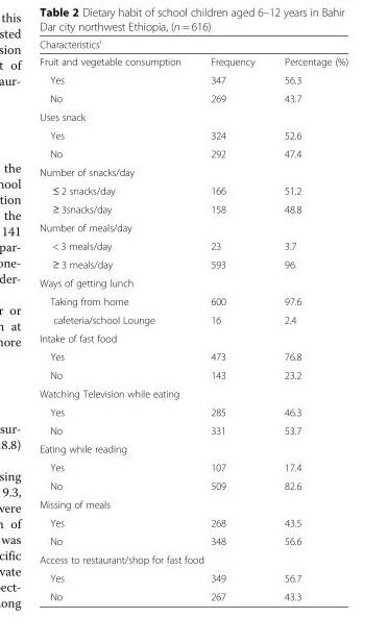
<table><thead><tr><td colspan="3">Characteristics’</td></tr><tr><td>Fruit and vegetable consumption</td><td>Frequency</td><td>Percentage (%)</td></tr></thead><tbody><tr><td>Yes</td><td>347</td><td>56.3</td></tr><tr><td>No</td><td>269</td><td>43.7</td></tr><tr><td colspan="3">Uses snack</td></tr><tr><td>Yes</td><td>324</td><td>52.6</td></tr><tr><td>No</td><td>292</td><td>47.4</td></tr><tr><td colspan="3">Number of snacks/day</td></tr><tr><td>≤ 2 snacks/day</td><td>166</td><td>51.2</td></tr><tr><td>≥ 3snacks/day</td><td>158</td><td>48.8</td></tr><tr><td colspan="3">Number of meals/day</td></tr><tr><td>&lt; 3 meals/day</td><td>23</td><td>3.7</td></tr><tr><td>≥ 3 meals/day</td><td>593</td><td>96.</td></tr><tr><td colspan="3">Ways of getting lunch</td></tr><tr><td>Taking from home</td><td>600</td><td>97.6</td></tr><tr><td>cafeteria/school Lounge</td><td>16</td><td>2.4</td></tr><tr><td colspan="3">Intake of fast food</td></tr><tr><td>Yes</td><td>473</td><td>76.8</td></tr><tr><td>No</td><td>143</td><td>23.2</td></tr><tr><td colspan="3">Watching Television while eating</td></tr><tr><td>Yes</td><td>285</td><td>46.3</td></tr><tr><td>No</td><td>331</td><td>53.7</td></tr><tr><td colspan="3">Eating while reading</td></tr><tr><td>Yes</td><td>107</td><td>17.4</td></tr><tr><td>No</td><td>509</td><td>82.6</td></tr><tr><td colspan="3">Missing of meals</td></tr><tr><td>Yes</td><td>268</td><td>43.5</td></tr><tr><td>No</td><td>348</td><td>56.6</td></tr><tr><td colspan="3">Access to restaurant/shop for fast food</td></tr><tr><td>Yes</td><td>349</td><td>56.7</td></tr><tr><td>No</td><td>267</td><td>43.3</td></tr></tbody></table>